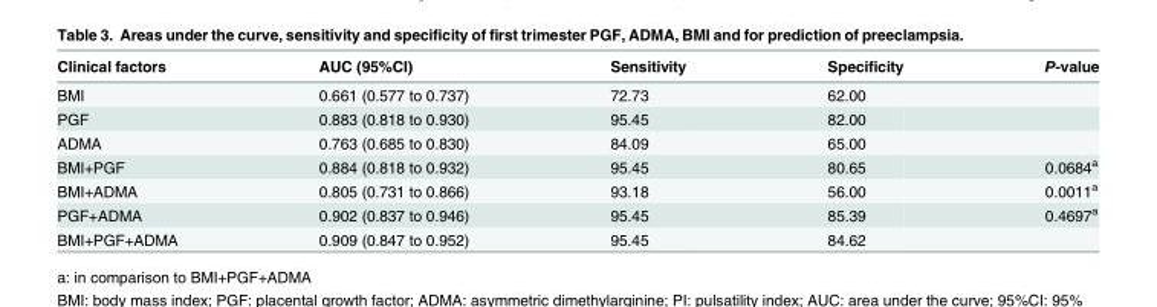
<table><thead><tr><td>Clinical factors</td><td>AUC (95%CI)</td><td>Sensitivity</td><td>Specificity</td><td>P-value</td></tr></thead><tbody><tr><td>BMI</td><td>0.661 (0.577 to 0.737)</td><td>72.73</td><td>62.00</td><td></td></tr><tr><td>PGF</td><td>0.883 (0.818 to 0.930)</td><td>95.45</td><td>82.00</td><td></td></tr><tr><td>ADMA</td><td>0.763 (0.685 to 0.830)</td><td>84.09</td><td>65.00</td><td></td></tr><tr><td>BMI+PGF</td><td>0.884 (0.818 to 0.932)</td><td>95.45</td><td>80.65</td><td>0.0684<sup>a</sup></td></tr><tr><td>BMI+ADMA</td><td>0.805 (0.731 to 0.866)</td><td>93.18</td><td>56.00</td><td>0.0011<sup>a</sup></td></tr><tr><td>PGF+ADMA</td><td>0.902 (0.837 to 0.946)</td><td>95.45</td><td>85.39</td><td>0.4697<sup>a</sup></td></tr><tr><td>BMI+PGF+ADMA</td><td>0.909 (0.847 to 0.952)</td><td>95.45</td><td>84.62</td><td></td></tr></tbody></table>